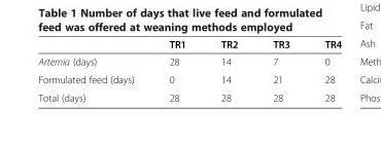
<table><thead><tr><td></td><td>TR1</td><td>TR2</td><td>TR3</td><td>TR4</td></tr></thead><tbody><tr><td>Artemia (days)</td><td>28</td><td>14</td><td>7</td><td>0</td></tr><tr><td>Formulated feed (days)</td><td>0</td><td>14</td><td>21</td><td>28</td></tr><tr><td>Total (days)</td><td>28</td><td>28</td><td>28</td><td>28</td></tr></tbody></table>